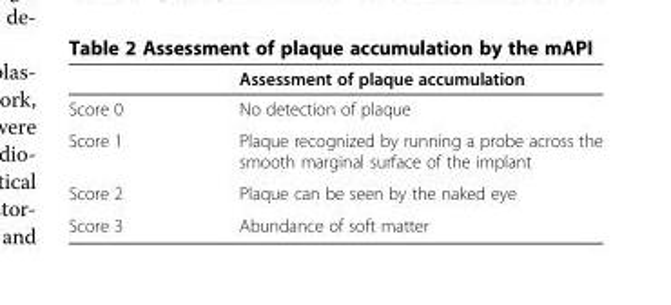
<table><thead><tr><td></td><td>Assessment of plaque accumulation</td></tr></thead><tbody><tr><td>Score 0</td><td>No detection of plaque</td></tr><tr><td>Score 1</td><td>Plaque recognized by running a probe across the smooth marginal surface of the implant</td></tr><tr><td>Score 2</td><td>Plaque can be seen by the naked eye</td></tr><tr><td>Score 3</td><td>Abundance of soft matter</td></tr></tbody></table>